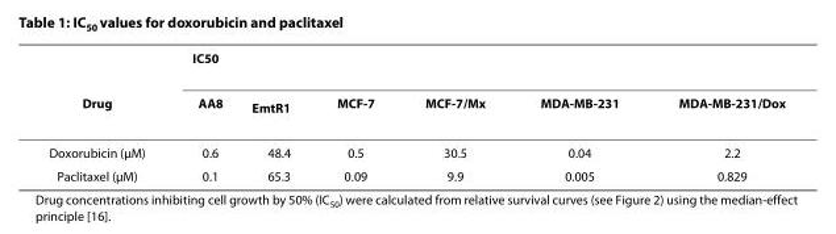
<table><thead><tr><td rowspan="2">Drug</td><td colspan="6">IC<sub>50</sub></td></tr><tr><td>AA8</td><td>Emt<sup>R1</sup></td><td>MCF-7</td><td>MCF-7/Mx</td><td>MDA-MB-231</td><td>MDA-MB-231/Dox</td></tr></thead><tbody><tr><td>Doxorubicin (μM)</td><td>0.6</td><td>48.4</td><td>0.5</td><td>30.5</td><td>0.04</td><td>2.2</td></tr><tr><td>Paclitaxel (μM)</td><td>0.1</td><td>65.3</td><td>0.09</td><td>9.9</td><td>0.005</td><td>0.829</td></tr></tbody></table>